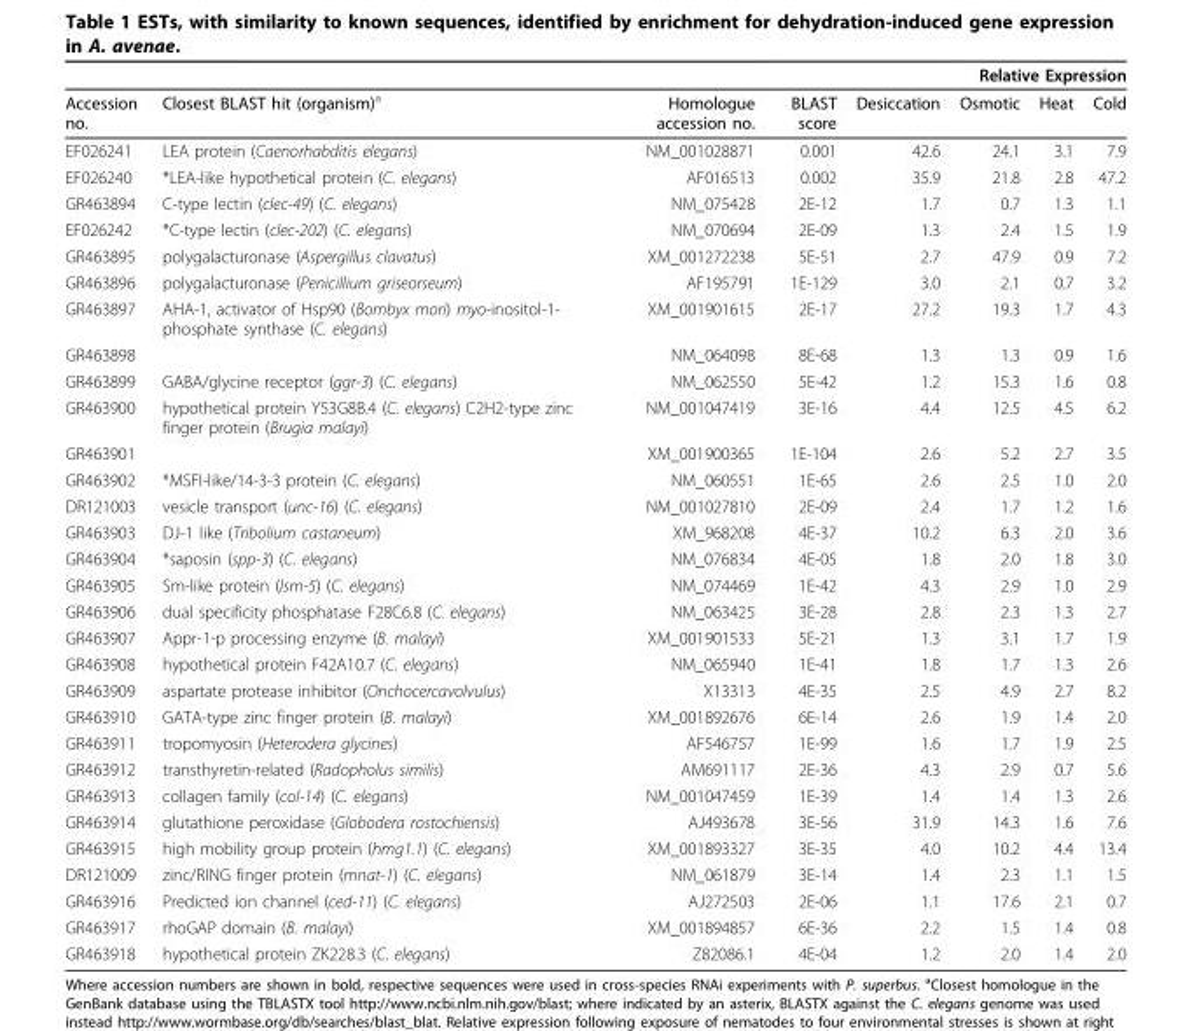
<table><thead><tr><td colspan="8">Relative Expression</td></tr><tr><td>Accession no.</td><td>Closest BLAST hit (organism)<sup>a</sup></td><td>Homologue accession no.</td><td>BLAST score</td><td>Desiccation</td><td>Osmotic</td><td>Heat</td><td>Cold</td></tr></thead><tbody><tr><td>EF026241</td><td>LEA protein (Caenorhabditis elegans)</td><td>NM_001028871</td><td>0.001</td><td>42.6</td><td>24.1</td><td>3.1</td><td>7.9</td></tr><tr><td>EF026240</td><td>*LEA-like hypothetical protein (C. elegans)</td><td>AF016513</td><td>0.002</td><td>35.9</td><td>21.8</td><td>2.8</td><td>47.2</td></tr><tr><td>GR463894</td><td>C-type lectin (clec-49) (C. elegans)</td><td>NM_075428</td><td>2E-12</td><td>1.7</td><td>0.7</td><td>1.3</td><td>1.1</td></tr><tr><td>EF026242</td><td>*C-type lectin (clec-202) (C. elegans)</td><td>NM_070694</td><td>2E-09</td><td>1.3</td><td>2.4</td><td>1.5</td><td>1.9</td></tr><tr><td>GR463895</td><td>polygalacturonase (Aspergillus clavatus)</td><td>XM_001272238</td><td>5E-51</td><td>2.7</td><td>47.9</td><td>0.9</td><td>7.2</td></tr><tr><td>GR463896</td><td>polygalacturonase (Penicillium griseorseum)</td><td>AF195791</td><td>1E-129</td><td>3.0</td><td>2.1</td><td>0.7</td><td>3.2</td></tr><tr><td>GR463897</td><td>AHA-1, activator of Hsp90 (Bombyx mori) myo-inositol-1- phosphate synthase (C. elegans)</td><td>XM_001901615</td><td>2E-17</td><td>27.2</td><td>19.3</td><td>1.7</td><td>4.3</td></tr><tr><td>GR463898</td><td></td><td>NM_064098</td><td>8E-68</td><td>1.3</td><td>1.3</td><td>0.9</td><td>1.6</td></tr><tr><td>GR463899</td><td>GABA/glycine receptor (ggr-3) (C. elegans)</td><td>NM_062550</td><td>5E-42</td><td>1.2</td><td>15.3</td><td>1.6</td><td>0.8</td></tr><tr><td>GR463900</td><td>hypothetical protein Y53G8B.4 (C. elegans) C2H2-type zinc finger protein (Brugia malayi)</td><td>NM_001047419</td><td>3E-16</td><td>4.4</td><td>12.5</td><td>4.5</td><td>6.2</td></tr><tr><td>GR463901</td><td></td><td>XM_001900365</td><td>1E-104</td><td>2.6</td><td>5.2</td><td>2.7</td><td>3.5</td></tr><tr><td>GR463902</td><td>*MSFI-like/14-3-3 protein (C. elegans)</td><td>NM_060551</td><td>1E-65</td><td>2.6</td><td>2.5</td><td>1.0</td><td>2.0</td></tr><tr><td>DR121003</td><td>vesicle transport (unc-16) (C. elegans)</td><td>NM_001027810</td><td>2E-09</td><td>2.4</td><td>1.7</td><td>1.2</td><td>1.6</td></tr><tr><td>GR463903</td><td>DJ-1 like (Tribolium castaneum)</td><td>XM_968208</td><td>4E-37</td><td>10.2</td><td>6.3</td><td>2.0</td><td>3.6</td></tr><tr><td>GR463904</td><td>*saposin (spp-3) (C. elegans)</td><td>NM_076834</td><td>4E-05</td><td>1.8</td><td>2.0</td><td>1.8</td><td>3.0</td></tr><tr><td>GR463905</td><td>Sm-like protein (lsm-5) (C. elegans)</td><td>NM_074469</td><td>1E-42</td><td>4.3</td><td>2.9</td><td>1.0</td><td>2.9</td></tr><tr><td>GR463906</td><td>dual specificity phosphatase F28C6.8 (C. elegans)</td><td>NM_063425</td><td>3E-28</td><td>2.8</td><td>2.3</td><td>1.3</td><td>2.7</td></tr><tr><td>GR463907</td><td>Appr-1-p processing enzyme (B. malayi)</td><td>XM_001901533</td><td>5E-21</td><td>1.3</td><td>3.1</td><td>1.7</td><td>1.9</td></tr><tr><td>GR463908</td><td>hypothetical protein F42A10.7 (C. elegans)</td><td>NM_065940</td><td>1E-41</td><td>1.8</td><td>1.7</td><td>1.3</td><td>2.6</td></tr><tr><td>GR463909</td><td>aspartate protease inhibitor (Onchocercavolvulus)</td><td>X13313</td><td>4E-35</td><td>2.5</td><td>4.9</td><td>2.7</td><td>8.2</td></tr><tr><td>GR463910</td><td>GATA-type zinc finger protein (B. malayi)</td><td>XM_001892676</td><td>6E-14</td><td>2.6</td><td>1.9</td><td>1.4</td><td>2.0</td></tr><tr><td>GR463911</td><td>tropomyosin (Heterodera glycines)</td><td>AF546757</td><td>1E-99</td><td>1.6</td><td>1.7</td><td>1.9</td><td>2.5</td></tr><tr><td>GR463912</td><td>transthyretin-related (Radopholus similis)</td><td>AM691117</td><td>2E-36</td><td>4.3</td><td>2.9</td><td>0.7</td><td>5.6</td></tr><tr><td>GR463913</td><td>collagen family (col-14) (C. elegans)</td><td>NM_001047459</td><td>1E-39</td><td>1.4</td><td>1.4</td><td>1.3</td><td>2.6</td></tr><tr><td>GR463914</td><td>glutathione peroxidase (Globodera rostochiensis)</td><td>AJ493678</td><td>3E-56</td><td>31.9</td><td>14.3</td><td>1.6</td><td>7.6</td></tr><tr><td>GR463915</td><td>high mobility group protein (hmg1.1) (C. elegans)</td><td>XM_001893327</td><td>3E-35</td><td>4.0</td><td>10.2</td><td>4.4</td><td>13.4</td></tr><tr><td>DR121009</td><td>zinc/RING finger protein (mnat-1) (C. elegans)</td><td>NM_061879</td><td>3E-14</td><td>1.4</td><td>2.3</td><td>1.1</td><td>1.5</td></tr><tr><td>GR463916</td><td>Predicted ion channel (ced-11) (C. elegans)</td><td>AJ272503</td><td>2E-06</td><td>1.1</td><td>17.6</td><td>2.1</td><td>0.7</td></tr><tr><td>GR463917</td><td>rhoGAP domain (B. malayi)</td><td>XM_001894857</td><td>6E-36</td><td>2.2</td><td>1.5</td><td>1.4</td><td>0.8</td></tr><tr><td>GR463918</td><td>hypothetical protein ZK228.3 (C. elegans)</td><td>Z82086.1</td><td>4E-04</td><td>1.2</td><td>2.0</td><td>1.4</td><td>2.0</td></tr></tbody></table>